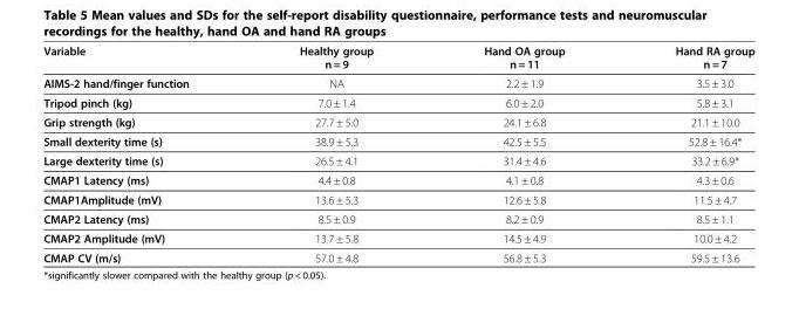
<table><thead><tr><td>Variable</td><td>Healthy group n = 9</td><td>Hand OA group n = 11</td><td>Hand RA group n = 7</td></tr></thead><tbody><tr><td>AIMS-2 hand/finger function</td><td>NA</td><td>2.2 ± 1.9</td><td>3.5 ± 3.0</td></tr><tr><td>Tripod pinch (kg)</td><td>7.0 ± 1.4</td><td>6.0 ± 2.0</td><td>5.8 ± 3.1</td></tr><tr><td>Grip strength (kg)</td><td>27.7 ± 5.0</td><td>24.1 ± 6.8</td><td>21.1 ± 10.0</td></tr><tr><td>Small dexterity time (s)</td><td>38.9 ± 5.3</td><td>42.5 ± 5.5</td><td>52.8 ± 16.4*</td></tr><tr><td>Large dexterity time (s)</td><td>26.5 ± 4.1</td><td>31.4 ± 4.6</td><td>33.2 ± 6.9*</td></tr><tr><td>CMAP1 Latency (ms)</td><td>4.4 ± 0.8</td><td>4.1 ± 0.8</td><td>4.3 ± 0.6</td></tr><tr><td>CMAP1Amplitude (mV)</td><td>13.6 ± 5.3</td><td>12.6 ± 5.8</td><td>11.5 ± 4.7</td></tr><tr><td>CMAP2 Latency (ms)</td><td>8.5 ± 0.9</td><td>8.2 ± 0.9</td><td>8.5 ± 1.1</td></tr><tr><td>CMAP2 Amplitude (mV)</td><td>13.7 ± 5.8</td><td>14.5 ± 4.9</td><td>10.0 ± 4.2</td></tr><tr><td>CMAP CV (m/s)</td><td>57.0 ± 4.8</td><td>56.8 ± 5.3</td><td>59.5 ± 13.6</td></tr></tbody></table>